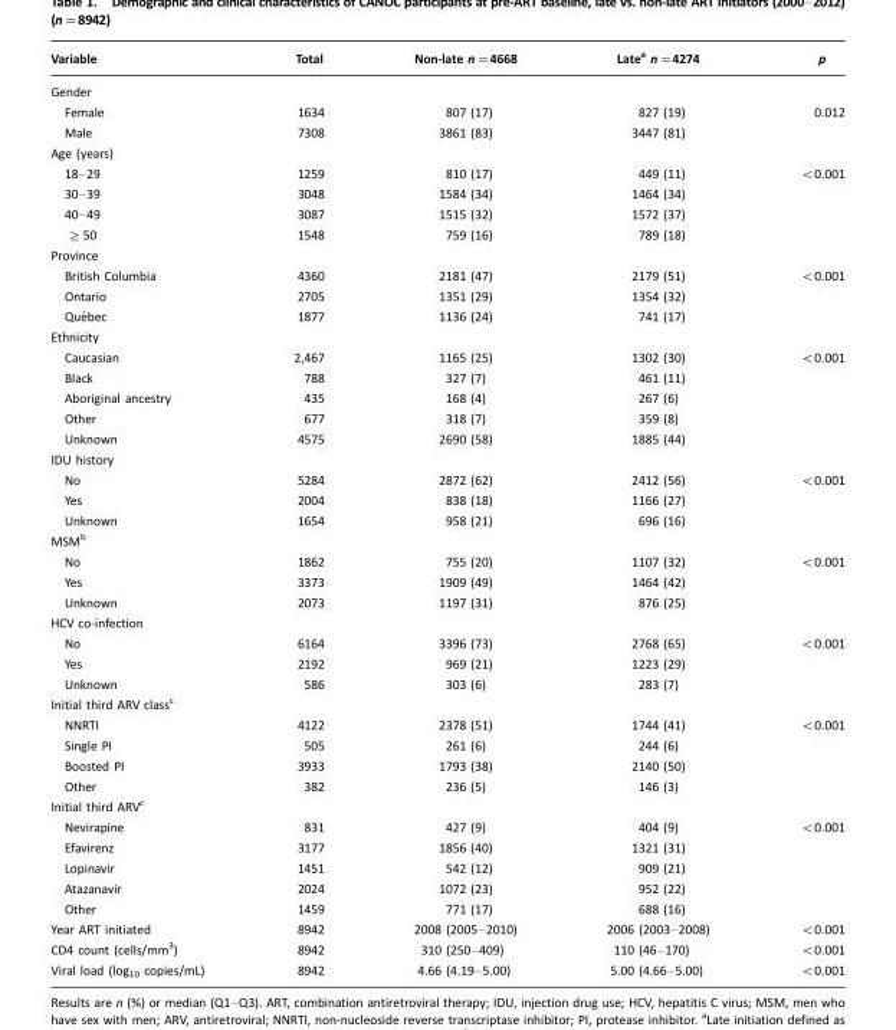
<table><thead><tr><td>Variable</td><td>Total</td><td>Non-late n=4668</td><td>Late<sup>a</sup> n=4274</td><td>p</td></tr></thead><tbody><tr><td colspan="5">Gender</td></tr><tr><td>Female</td><td>1634</td><td>807 (17)</td><td>827 (19)</td><td>0.012</td></tr><tr><td>Male</td><td>7308</td><td>3861 (83)</td><td>3447 (81)</td><td></td></tr><tr><td colspan="5">Age (years)</td></tr><tr><td>18–29</td><td>1259</td><td>810 (17)</td><td>449 (11)</td><td>&lt;0.001</td></tr><tr><td>30–39</td><td>3048</td><td>1584 (34)</td><td>1464 (34)</td><td></td></tr><tr><td>40–49</td><td>3087</td><td>1515 (32)</td><td>1572 (37)</td><td></td></tr><tr><td>≥50</td><td>1548</td><td>759 (16)</td><td>789 (18)</td><td></td></tr><tr><td colspan="5">Province</td></tr><tr><td>British Columbia</td><td>4360</td><td>2181 (47)</td><td>2179 (51)</td><td>&lt;0.001</td></tr><tr><td>Ontario</td><td>2705</td><td>1351 (29)</td><td>1354 (32)</td><td></td></tr><tr><td>Que´bec</td><td>1877</td><td>1136 (24)</td><td>741 (17)</td><td></td></tr><tr><td colspan="5">Ethnicity</td></tr><tr><td>Caucasian</td><td>2,467</td><td>1165 (25)</td><td>1302 (30)</td><td>&lt;0.001</td></tr><tr><td>Black</td><td>788</td><td>327 (7)</td><td>461 (11)</td><td></td></tr><tr><td>Aboriginal ancestry</td><td>435</td><td>168 (4)</td><td>267 (6)</td><td></td></tr><tr><td>Other</td><td>677</td><td>318 (7)</td><td>359 (8)</td><td></td></tr><tr><td>Unknown</td><td>4575</td><td>2690 (58)</td><td>1885 (44)</td><td></td></tr><tr><td colspan="5">IDU history</td></tr><tr><td>No</td><td>5284</td><td>2872 (62)</td><td>2412 (56)</td><td>&lt;0.001</td></tr><tr><td>Yes</td><td>2004</td><td>838 (18)</td><td>1166 (27)</td><td></td></tr><tr><td>Unknown</td><td>1654</td><td>958 (21)</td><td>696 (16)</td><td></td></tr><tr><td colspan="5">MSM<sup>b</sup></td></tr><tr><td>No</td><td>1862</td><td>755 (20)</td><td>1107 (32)</td><td>&lt;0.001</td></tr><tr><td>Yes</td><td>3373</td><td>1909 (49)</td><td>1464 (42)</td><td></td></tr><tr><td>Unknown</td><td>2073</td><td>1197 (31)</td><td>876 (25)</td><td></td></tr><tr><td colspan="5">HCV co-infection</td></tr><tr><td>No</td><td>6164</td><td>3396 (73)</td><td>2768 (65)</td><td>&lt;0.001</td></tr><tr><td>Yes</td><td>2192</td><td>969 (21)</td><td>1223 (29)</td><td></td></tr><tr><td>Unknown</td><td>586</td><td>303 (6)</td><td>283 (7)</td><td></td></tr><tr><td colspan="5">Initial third ARV class<sup>c</sup></td></tr><tr><td>NNRTI</td><td>4122</td><td>2378 (51)</td><td>1744 (41)</td><td>&lt;0.001</td></tr><tr><td>Single PI</td><td>505</td><td>261 (6)</td><td>244 (6)</td><td></td></tr><tr><td>Boosted PI</td><td>3933</td><td>1793 (38)</td><td>2140 (50)</td><td></td></tr><tr><td>Other</td><td>382</td><td>236 (5)</td><td>146 (3)</td><td></td></tr><tr><td colspan="5">Initial third ARV<sup>c</sup></td></tr><tr><td>Nevirapine</td><td>831</td><td>427 (9)</td><td>404 (9)</td><td>&lt;0.001</td></tr><tr><td>Efavirenz</td><td>3177</td><td>1856 (40)</td><td>1321 (31)</td><td></td></tr><tr><td>Lopinavir</td><td>1451</td><td>542 (12)</td><td>909 (21)</td><td></td></tr><tr><td>Atazanavir</td><td>2024</td><td>1072 (23)</td><td>952 (22)</td><td></td></tr><tr><td>Other</td><td>1459</td><td>771 (17)</td><td>688 (16)</td><td></td></tr><tr><td>Year ART initiated</td><td>8942</td><td>2008 (2005–2010)</td><td>2006 (2003–2008)</td><td>&lt;0.001</td></tr><tr><td>CD4 count (cells/mm<sup>3</sup>)</td><td>8942</td><td>310 (250–409)</td><td>110 (46–170)</td><td>&lt;0.001</td></tr><tr><td>Viral load (log<sub>10</sub> copies/mL)</td><td>8942</td><td>4.66 (4.19–5.00)</td><td>5.00 (4.66–5.00)</td><td>&lt;0.001</td></tr></tbody></table>